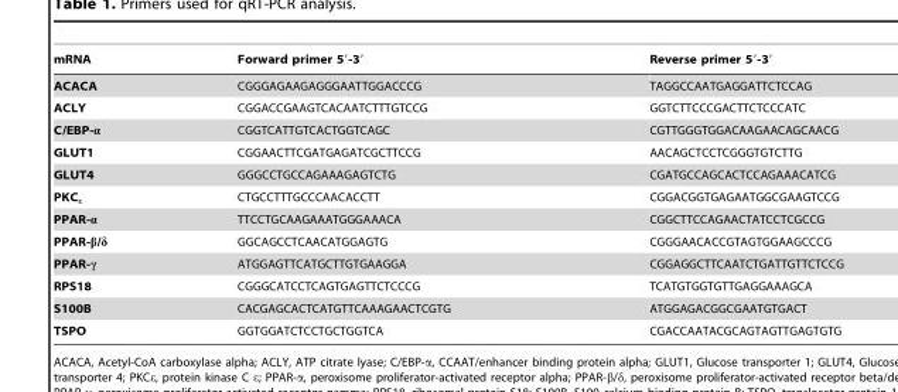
<table><thead><tr><td>mRNA</td><td>Forward primer 5′-3′</td><td>Reverse primer 5′-3′</td></tr></thead><tbody><tr><td>ACACA</td><td>CGGGAGAAGAGGGAATTGGACCCG</td><td>TAGGCCAATGAGGATTCTCCAG</td></tr><tr><td>ACLY</td><td>CGGACCGAAGTCACAATCTTTGTCCG</td><td>GGTCTTCCCGACTTCTCCCATC</td></tr><tr><td>C/EBP-α</td><td>CGGTCATTGTCACTGGTCAGC</td><td>CGTTGGGTGGACAAGAACAGCAACG</td></tr><tr><td>GLUT1</td><td>CGGAACTTCGATGAGATCGCTTCCG</td><td>AACAGCTCCTCGGGTGTCTTG</td></tr><tr><td>GLUT4</td><td>GGGCCTGCCAGAAAGAGTCTG</td><td>CGATGCCAGCACTCCAGAAACATCG</td></tr><tr><td>PKC<sub>ε</sub></td><td>CTGCCTTTGCCCAACACCTT</td><td>CGGACGGTGAGAATGGCGAAGTCCG</td></tr><tr><td>PPAR-α</td><td>TTCCTGCAAGAAATGGGAAACA</td><td>CGGCTTCCAGAACTATCCTCGCCG</td></tr><tr><td>PPAR-β/δ</td><td>GGCAGCCTCAACATGGAGTG</td><td>CGGGAACACCGTAGTGGAAGCCCG</td></tr><tr><td>PPAR-γ</td><td>ATGGAGTTCATGCTTGTGAAGGA</td><td>CGGAGGCTTCAATCTGATTGTTCTCCG</td></tr><tr><td>RPS18</td><td>CGGGCATCCTCAGTGAGTTCTCCCG</td><td>TCATGTGGTGTTGAGGAAAGCA</td></tr><tr><td>S100B</td><td>CACGAGCACTCATGTTCAAAGAACTCGTG</td><td>ATGGAGACGGCGAATGTGACT</td></tr><tr><td>TSPO</td><td>GGTGGATCTCCTGCTGGTCA</td><td>CGACCAATACGCAGTAGTTGAGTGTG</td></tr></tbody></table>